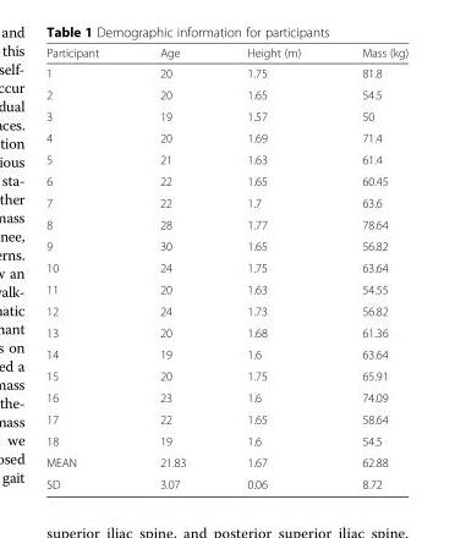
<table><thead><tr><td>Participant</td><td>Age</td><td>Height (m)</td><td>Mass (kg)</td></tr></thead><tbody><tr><td>1</td><td>20</td><td>1.75</td><td>81.8</td></tr><tr><td>2</td><td>20</td><td>1.65</td><td>54.5</td></tr><tr><td>3</td><td>19</td><td>1.57</td><td>50</td></tr><tr><td>4</td><td>20</td><td>1.69</td><td>71.4</td></tr><tr><td>5</td><td>21</td><td>1.63</td><td>61.4</td></tr><tr><td>6</td><td>22</td><td>1.65</td><td>60.45</td></tr><tr><td>7</td><td>22</td><td>1.7</td><td>63.6</td></tr><tr><td>8</td><td>28</td><td>1.77</td><td>78.64</td></tr><tr><td>9</td><td>30</td><td>1.65</td><td>56.82</td></tr><tr><td>10</td><td>24</td><td>1.75</td><td>63.64</td></tr><tr><td>11</td><td>20</td><td>1.63</td><td>54.55</td></tr><tr><td>12</td><td>24</td><td>1.73</td><td>56.82</td></tr><tr><td>13</td><td>20</td><td>1.68</td><td>61.36</td></tr><tr><td>14</td><td>19</td><td>1.6</td><td>63.64</td></tr><tr><td>15</td><td>20</td><td>1.75</td><td>65.91</td></tr><tr><td>16</td><td>23</td><td>1.6</td><td>74.09</td></tr><tr><td>17</td><td>22</td><td>1.65</td><td>58.64</td></tr><tr><td>18</td><td>19</td><td>1.6</td><td>54.5</td></tr><tr><td>MEAN</td><td>21.83</td><td>1.67</td><td>62.88</td></tr><tr><td>SD</td><td>3.07</td><td>0.06</td><td>8.72</td></tr></tbody></table>